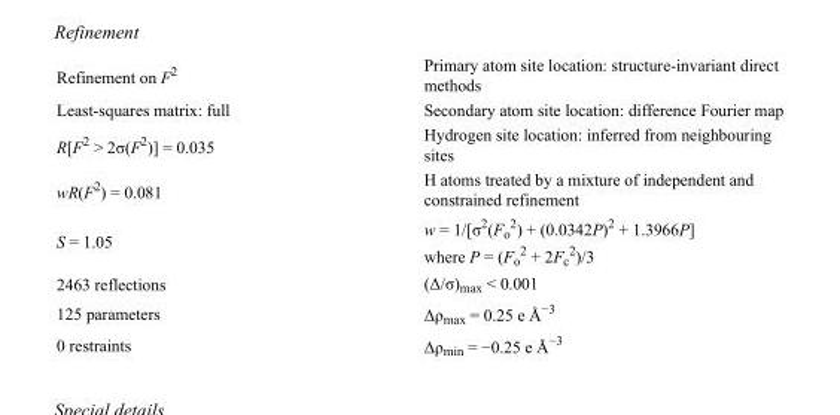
<table><tbody><tr><td>Refinement on F<sup>2</sup></td><td>Primary atom site location: structure-invariant direct methods</td></tr><tr><td>Least-squares matrix: full</td><td>Secondary atom site location: difference Fourier map</td></tr><tr><td>R[F<sup>2</sup> &gt; 2σ(F<sup>2</sup>)] = 0.035</td><td>Hydrogen site location: inferred from neighbouring sites</td></tr><tr><td>wR(F<sup>2</sup>) = 0.081</td><td>H atoms treated by a mixture of independent and constrained refinement</td></tr><tr><td>S = 1.05</td><td>w = 1/[σ<sup>2</sup>(F<sub>o</sub> <sup>2</sup>) + (0.0342P)<sup>2</sup> + 1.3966P] where P = (F<sub>o</sub> <sup>2</sup> + 2F<sub>c</sub> <sup>2</sup>)/3</td></tr><tr><td>2463 reflections</td><td>(Δ/σ)<sub>max</sub> &lt; 0.001</td></tr><tr><td>125 parameters</td><td>Δρ<sub>max</sub> = 0.25 e Å<sup>−3</sup></td></tr><tr><td>0 restraints</td><td>Δρ<sub>min</sub> = −0.25 e Å<sup>−3</sup></td></tr></tbody></table>